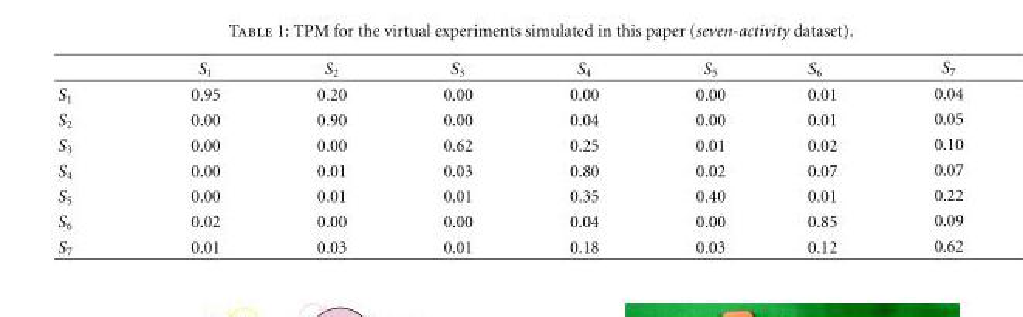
<table><thead><tr><td></td><td>S<sub>1</sub></td><td>S<sub>2</sub></td><td>S<sub>3</sub></td><td>S<sub>4</sub></td><td>S<sub>5</sub></td><td>S<sub>6</sub></td><td>S<sub>7</sub></td></tr></thead><tbody><tr><td>S<sub>1</sub></td><td>0.95</td><td>0.20</td><td>0.00</td><td>0.00</td><td>0.00</td><td>0.01</td><td>0.04</td></tr><tr><td>S<sub>2</sub></td><td>0.00</td><td>0.90</td><td>0.00</td><td>0.04</td><td>0.00</td><td>0.01</td><td>0.05</td></tr><tr><td>S<sub>3</sub></td><td>0.00</td><td>0.00</td><td>0.62</td><td>0.25</td><td>0.01</td><td>0.02</td><td>0.10</td></tr><tr><td>S<sub>4</sub></td><td>0.00</td><td>0.01</td><td>0.03</td><td>0.80</td><td>0.02</td><td>0.07</td><td>0.07</td></tr><tr><td>S<sub>5</sub></td><td>0.00</td><td>0.01</td><td>0.01</td><td>0.35</td><td>0.40</td><td>0.01</td><td>0.22</td></tr><tr><td>S<sub>6</sub></td><td>0.02</td><td>0.00</td><td>0.00</td><td>0.04</td><td>0.00</td><td>0.85</td><td>0.09</td></tr><tr><td>S<sub>7</sub></td><td>0.01</td><td>0.03</td><td>0.01</td><td>0.18</td><td>0.03</td><td>0.12</td><td>0.62</td></tr></tbody></table>